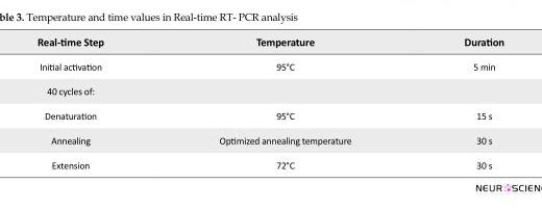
<table><thead><tr><td>Real-time Step</td><td>Temperature</td><td>Duration</td></tr></thead><tbody><tr><td>Initial activation</td><td>95°C</td><td>5 min</td></tr><tr><td colspan="3">40 cycles of:</td></tr><tr><td>Denaturation</td><td>95°C</td><td>15 s</td></tr><tr><td>Annealing</td><td>Optimized annealing temperature</td><td>30 s</td></tr><tr><td>Extension</td><td>72°C</td><td>30 s</td></tr></tbody></table>